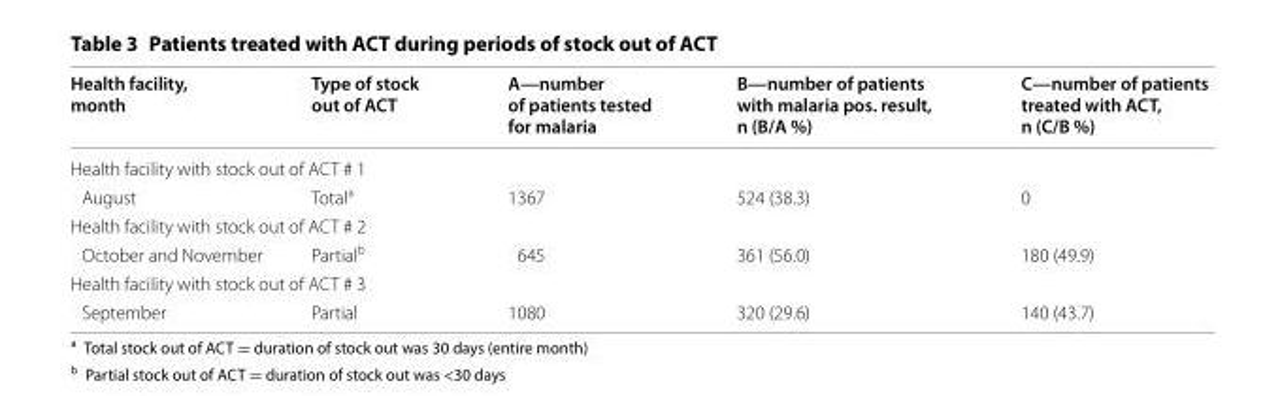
<table><thead><tr><td>Health facility, month</td><td>Type of stock out of ACT</td><td>A—number of patients tested for malaria</td><td>B—number of patients with malaria pos. result, n (B/A %)</td><td>C—number of patients treated with ACT, n (C/B %)</td></tr></thead><tbody><tr><td colspan="5">Health facility with stock out of ACT # 1</td></tr><tr><td>August</td><td>Total<sup>a</sup></td><td>1367</td><td>524 (38.3)</td><td>0</td></tr><tr><td colspan="5">Health facility with stock out of ACT # 2</td></tr><tr><td>October and November</td><td>Partial<sup>b</sup></td><td>645</td><td>361 (56.0)</td><td>180 (49.9)</td></tr><tr><td colspan="5">Health facility with stock out of ACT # 3</td></tr><tr><td>September</td><td>Partial</td><td>1080</td><td>320 (29.6)</td><td>140 (43.7)</td></tr></tbody></table>